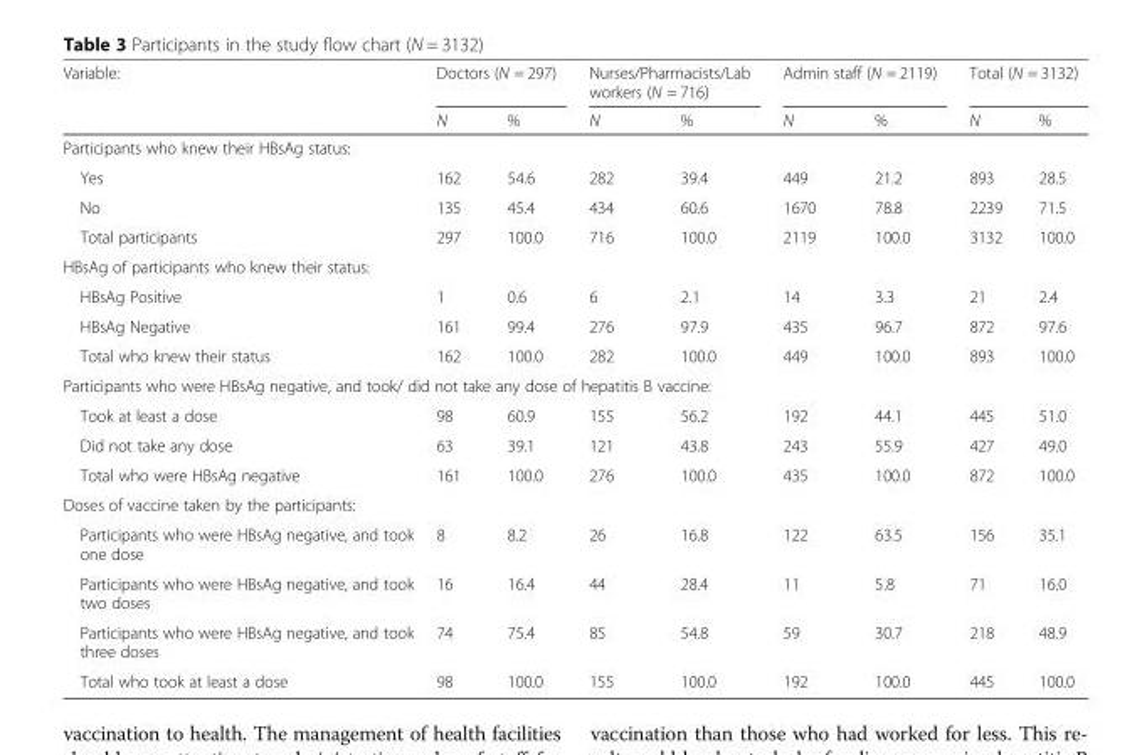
<table><thead><tr><td rowspan="2">Variable:</td><td colspan="2">Doctors (N = 297)</td><td colspan="2">Nurses/Pharmacists/Lab workers (N = 716)</td><td colspan="2">Admin staff (N = 2119)</td><td colspan="2">Total (N = 3132)</td></tr><tr><td>N</td><td>%</td><td>N</td><td>%</td><td>N</td><td>%</td><td>N</td><td>%</td></tr></thead><tbody><tr><td colspan="9">Participants who knew their HBsAg status:</td></tr><tr><td>Yes</td><td>162</td><td>54.6</td><td>282</td><td>39.4</td><td>449</td><td>21.2</td><td>893</td><td>28.5</td></tr><tr><td>No</td><td>135</td><td>45.4</td><td>434</td><td>60.6</td><td>1670</td><td>78.8</td><td>2239</td><td>71.5</td></tr><tr><td>Total participants</td><td>297</td><td>100.0</td><td>716</td><td>100.0</td><td>2119</td><td>100.0</td><td>3132</td><td>100.0</td></tr><tr><td colspan="9">HBsAg of participants who knew their status:</td></tr><tr><td>HBsAg Positive</td><td>1</td><td>0.6</td><td>6</td><td>2.1</td><td>14</td><td>3.3</td><td>21</td><td>2.4</td></tr><tr><td>HBsAg Negative</td><td>161</td><td>99.4</td><td>276</td><td>97.9</td><td>435</td><td>96.7</td><td>872</td><td>97.6</td></tr><tr><td>Total who knew their status</td><td>162</td><td>100.0</td><td>282</td><td>100.0</td><td>449</td><td>100.0</td><td>893</td><td>100.0</td></tr><tr><td colspan="9">Participants who were HBsAg negative, and took/ did not take any dose of hepatitis B vaccine:</td></tr><tr><td>Took at least a dose</td><td>98</td><td>60.9</td><td>155</td><td>56.2</td><td>192</td><td>44.1</td><td>445</td><td>51.0</td></tr><tr><td>Did not take any dose</td><td>63</td><td>39.1</td><td>121</td><td>43.8</td><td>243</td><td>55.9</td><td>427</td><td>49.0</td></tr><tr><td>Total who were HBsAg negative</td><td>161</td><td>100.0</td><td>276</td><td>100.0</td><td>435</td><td>100.0</td><td>872</td><td>100.0</td></tr><tr><td colspan="9">Doses of vaccine taken by the participants:</td></tr><tr><td>Participants who were HBsAg negative, and took one dose</td><td>8</td><td>8.2</td><td>26</td><td>16.8</td><td>122</td><td>63.5</td><td>156</td><td>35.1</td></tr><tr><td>Participants who were HBsAg negative, and took two doses</td><td>16</td><td>16.4</td><td>44</td><td>28.4</td><td>11</td><td>5.8</td><td>71</td><td>16.0</td></tr><tr><td>Participants who were HBsAg negative, and took three doses</td><td>74</td><td>75.4</td><td>85</td><td>54.8</td><td>59</td><td>30.7</td><td>218</td><td>48.9</td></tr><tr><td>Total who took at least a dose</td><td>98</td><td>100.0</td><td>155</td><td>100.0</td><td>192</td><td>100.0</td><td>445</td><td>100.0</td></tr></tbody></table>